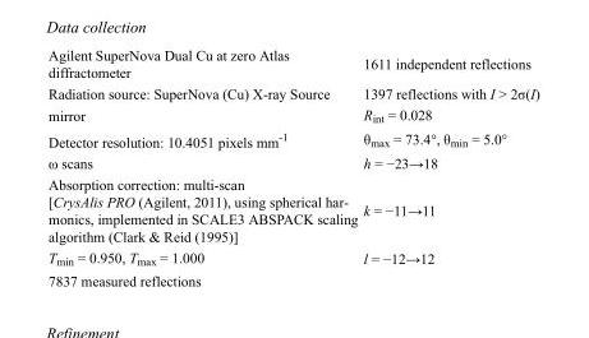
<table><tbody><tr><td>Agilent SuperNova Dual Cu at zero Atlas diffractometer</td><td>1611 independent reflections</td></tr><tr><td>Radiation source: SuperNova (Cu) X-ray Source</td><td>1397 reflections with I &gt; 2σ(I)</td></tr><tr><td>mirror</td><td>R<sub>int</sub> = 0.028</td></tr><tr><td>Detector resolution: 10.4051 pixels mm<sup>-1</sup></td><td>θ<sub>max</sub> = 73.4°, θ<sub>min</sub> = 5.0°</td></tr><tr><td>ω scans</td><td>h = −23→18</td></tr><tr><td>Absorption correction: multi-scan [CrysAlis PRO (Agilent, 2011), using spherical har- monics, implemented in SCALE3 ABSPACK scaling algorithm (Clark &amp; Reid (1995)]</td><td>k = −11→11</td></tr><tr><td>T<sub>min</sub> = 0.950, T<sub>max</sub> = 1.000</td><td>l = −12→12</td></tr><tr><td>7837 measured reflections</td><td></td></tr></tbody></table>